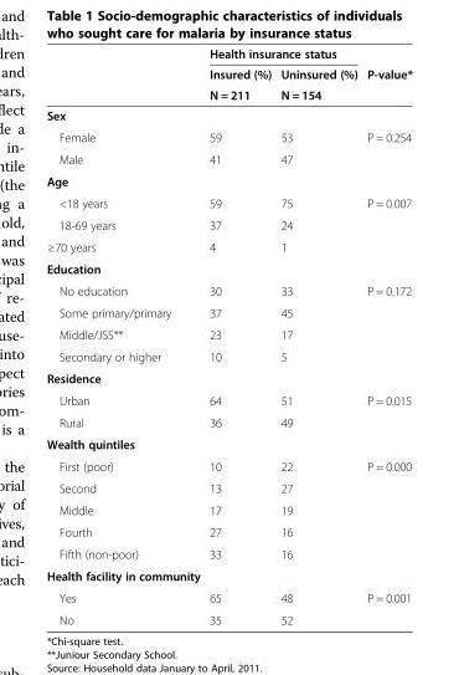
<table><thead><tr><td rowspan="3"></td><td colspan="2">Health insurance status</td><td rowspan="3">P-value*</td></tr><tr><td rowspan="2">Insured (%) N = 211</td><td rowspan="2">Uninsured (%) N = 154</td></tr><tr></tr></thead><tbody><tr><td colspan="4">Sex</td></tr><tr><td>Female</td><td>59</td><td>53</td><td>P = 0.254</td></tr><tr><td>Male</td><td>41</td><td>47</td><td></td></tr><tr><td colspan="4">Age</td></tr><tr><td>&lt;18 years</td><td>59</td><td>75</td><td>P = 0.007</td></tr><tr><td>18-69 years</td><td>37</td><td>24</td><td></td></tr><tr><td>≥70 years</td><td>4</td><td>1</td><td></td></tr><tr><td colspan="4">Education</td></tr><tr><td>No education</td><td>30</td><td>33</td><td>P = 0.172</td></tr><tr><td>Some primary/primary</td><td>37</td><td>45</td><td></td></tr><tr><td>Middle/JSS**</td><td>23</td><td>17</td><td></td></tr><tr><td>Secondary or higher</td><td>10</td><td>5</td><td></td></tr><tr><td colspan="4">Residence</td></tr><tr><td>Urban</td><td>64</td><td>51</td><td>P = 0.015</td></tr><tr><td>Rural</td><td>36</td><td>49</td><td></td></tr><tr><td colspan="4">Wealth quintiles</td></tr><tr><td>First (poor)</td><td>10</td><td>22</td><td>P = 0.000</td></tr><tr><td>Second</td><td>13</td><td>27</td><td></td></tr><tr><td>Middle</td><td>17</td><td>19</td><td></td></tr><tr><td>Fourth</td><td>27</td><td>16</td><td></td></tr><tr><td>Fifth (non-poor)</td><td>33</td><td>16</td><td></td></tr><tr><td colspan="4">Health facility in community</td></tr><tr><td>Yes</td><td>65</td><td>48</td><td>P = 0.001</td></tr><tr><td>No</td><td>35</td><td>52</td><td></td></tr></tbody></table>